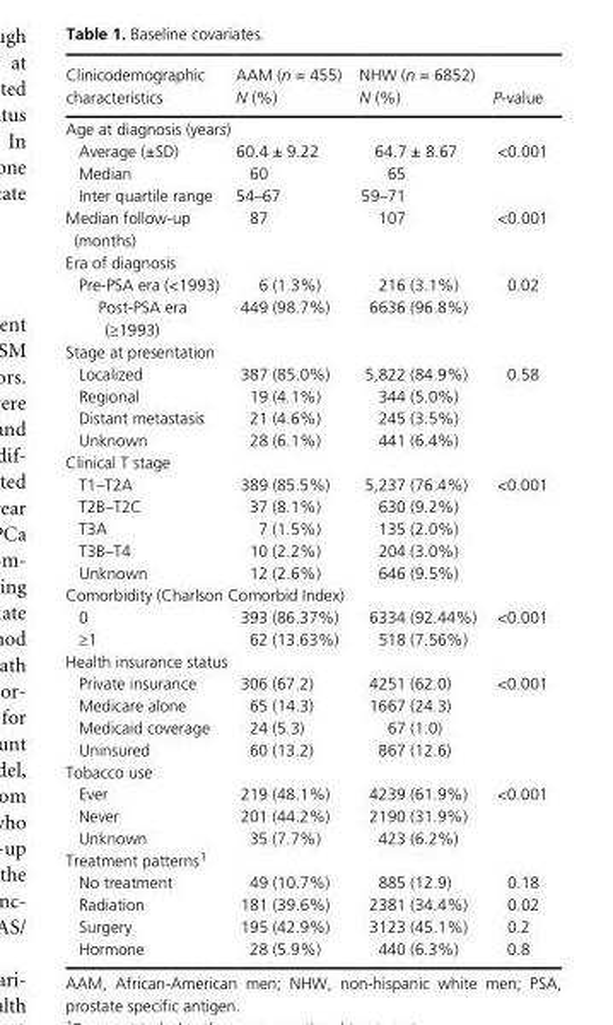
<table><thead><tr><td>Clinicodemographic characteristics</td><td>AAM (n = 455) N (%)</td><td>NHW (n = 6852) N (%)</td><td>P- value</td></tr></thead><tbody><tr><td colspan="4">Age at diagnosis (years)</td></tr><tr><td>Average (±SD)</td><td>60.4 ± 9.22</td><td>64.7 ± 8.67</td><td rowspan="3">&lt;0.001</td></tr><tr><td>Median</td><td>60</td><td>65</td></tr><tr><td>Inter quartile range</td><td>54–67</td><td>59–71</td></tr><tr><td>Median follow- up (months)</td><td>87</td><td>107</td><td>&lt;0.001</td></tr><tr><td colspan="4">Era of diagnosis</td></tr><tr><td>Pre- PSA era (&lt;1993)</td><td>6 (1.3%)</td><td>216 (3.1%)</td><td rowspan="2">0.02</td></tr><tr><td>Post- PSA era (≥1993)</td><td>449 (98.7%)</td><td>6636 (96.8%)</td></tr><tr><td colspan="4">Stage at presentation</td></tr><tr><td>Localized</td><td>387 (85.0%)</td><td>5,822 (84.9%)</td><td rowspan="4">0.58</td></tr><tr><td>Regional</td><td>19 (4.1%)</td><td>344 (5.0%)</td></tr><tr><td>Distant metastasis</td><td>21 (4.6%)</td><td>245 (3.5%)</td></tr><tr><td>Unknown</td><td>28 (6.1%)</td><td>441 (6.4%)</td></tr><tr><td colspan="4">Clinical T stage</td></tr><tr><td>T1–T2A</td><td>389 (85.5%)</td><td>5,237 (76.4%)</td><td rowspan="5">&lt;0.001</td></tr><tr><td>T2B–T2C</td><td>37 (8.1%)</td><td>630 (9.2%)</td></tr><tr><td>T3A</td><td>7 (1.5%)</td><td>135 (2.0%)</td></tr><tr><td>T3B–T4</td><td>10 (2.2%)</td><td>204 (3.0%)</td></tr><tr><td>Unknown</td><td>12 (2.6%)</td><td>646 (9.5%)</td></tr><tr><td colspan="4">Comorbidity (Charlson Comorbid Index)</td></tr><tr><td>0</td><td>393 (86.37%)</td><td>6334 (92.44%)</td><td rowspan="2">&lt;0.001</td></tr><tr><td>≥1</td><td>62 (13.63%)</td><td>518 (7.56%)</td></tr><tr><td colspan="4">Health insurance status</td></tr><tr><td>Private insurance</td><td>306 (67.2)</td><td>4251 (62.0)</td><td rowspan="4">&lt;0.001</td></tr><tr><td>Medicare alone</td><td>65 (14.3)</td><td>1667 (24.3)</td></tr><tr><td>Medicaid coverage</td><td>24 (5.3)</td><td>67 (1.0)</td></tr><tr><td>Uninsured</td><td>60 (13.2)</td><td>867 (12.6)</td></tr><tr><td colspan="4">Tobacco use</td></tr><tr><td>Ever</td><td>219 (48.1%)</td><td>4239 (61.9%)</td><td rowspan="3">&lt;0.001</td></tr><tr><td>Never</td><td>201 (44.2%)</td><td>2190 (31.9%)</td></tr><tr><td>Unknown</td><td>35 (7.7%)</td><td>423 (6.2%)</td></tr><tr><td colspan="4">Treatment patterns1</td></tr><tr><td>No treatment</td><td>49 (10.7%)</td><td>885 (12.9)</td><td>0.18</td></tr><tr><td>Radiation</td><td>181 (39.6%)</td><td>2381 (34.4%)</td><td>0.02</td></tr><tr><td>Surgery</td><td>195 (42.9%)</td><td>3123 (45.1%)</td><td>0.2</td></tr><tr><td>Hormone</td><td>28 (5.9%)</td><td>440 (6.3%)</td><td>0.8</td></tr></tbody></table>